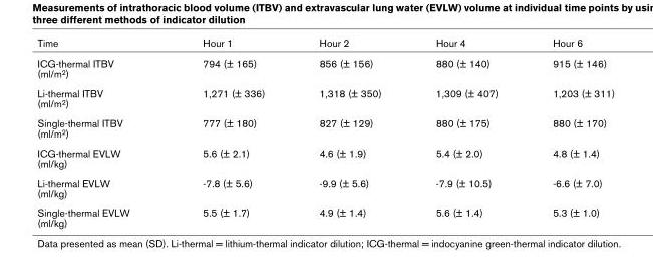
<table><thead><tr><td>Time</td><td>Hour 1</td><td>Hour 2</td><td>Hour 4</td><td>Hour 6</td></tr></thead><tbody><tr><td>ICG-thermal ITBV (ml/m<sup>2</sup>)</td><td>794 (± 165)</td><td>856 (± 156)</td><td>880 (± 140)</td><td>915 (± 146)</td></tr><tr><td>Li-thermal ITBV (ml/m<sup>2</sup>)</td><td>1,271 (± 336)</td><td>1,318 (± 350)</td><td>1,309 (± 407)</td><td>1,203 (± 311)</td></tr><tr><td>Single-thermal ITBV (ml/m<sup>2</sup>)</td><td>777 (± 180)</td><td>827 (± 129)</td><td>880 (± 175)</td><td>880 (± 170)</td></tr><tr><td>ICG-thermal EVLW (ml/kg)</td><td>5.6 (± 2.1)</td><td>4.6 (± 1.9)</td><td>5.4 (± 2.0)</td><td>4.8 (± 1.4)</td></tr><tr><td>Li-thermal EVLW (ml/kg)</td><td>-7.8 (± 5.6)</td><td>-9.9 (± 5.6)</td><td>-7.9 (± 10.5)</td><td>-6.6 (± 7.0)</td></tr><tr><td>Single-thermal EVLW (ml/kg)</td><td>5.5 (± 1.7)</td><td>4.9 (± 1.4)</td><td>5.6 (± 1.4)</td><td>5.3 (± 1.0)</td></tr></tbody></table>